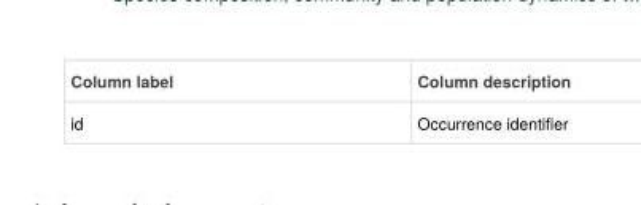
<table><thead><tr><td>Column label</td><td>Column description</td></tr></thead><tbody><tr><td>id</td><td>Occurrence identifier</td></tr></tbody></table>